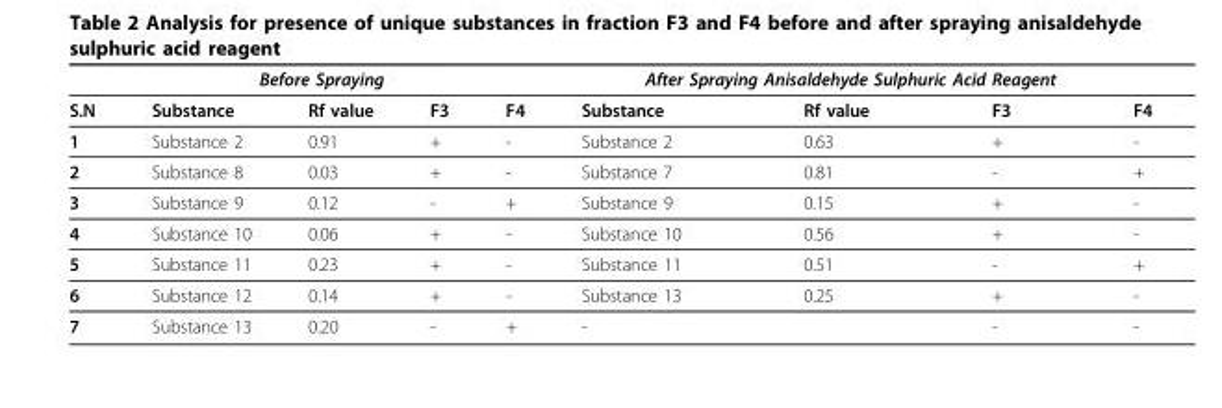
<table><thead><tr><td rowspan="2">S.N</td><td colspan="3">Before Spraying</td><td rowspan="2">F4</td><td colspan="3">After Spraying Anisaldehyde Sulphuric Acid Reagent</td><td rowspan="2">F4</td></tr><tr><td>Substance</td><td>Rf value</td><td>F3</td><td>Substance</td><td>Rf value</td><td>F3</td></tr></thead><tbody><tr><td>1</td><td>Substance 2</td><td>0.91</td><td>+</td><td>-</td><td>Substance 2</td><td>0.63</td><td>+</td><td>-</td></tr><tr><td>2</td><td>Substance 8</td><td>0.03</td><td>+</td><td>-</td><td>Substance 7</td><td>0.81</td><td>-</td><td>+</td></tr><tr><td>3</td><td>Substance 9</td><td>0.12</td><td>-</td><td>+</td><td>Substance 9</td><td>0.15</td><td>+</td><td>-</td></tr><tr><td>4</td><td>Substance 10</td><td>0.06</td><td>+</td><td>-</td><td>Substance 10</td><td>0.56</td><td>+</td><td>-</td></tr><tr><td>5</td><td>Substance 11</td><td>0.23</td><td>+</td><td>-</td><td>Substance 11</td><td>0.51</td><td>-</td><td>+</td></tr><tr><td>6</td><td>Substance 12</td><td>0.14</td><td>+</td><td>-</td><td>Substance 13</td><td>0.25</td><td>+</td><td>-</td></tr><tr><td>7</td><td>Substance 13</td><td>0.20</td><td>-</td><td>+</td><td>-</td><td></td><td>-</td><td>-</td></tr></tbody></table>